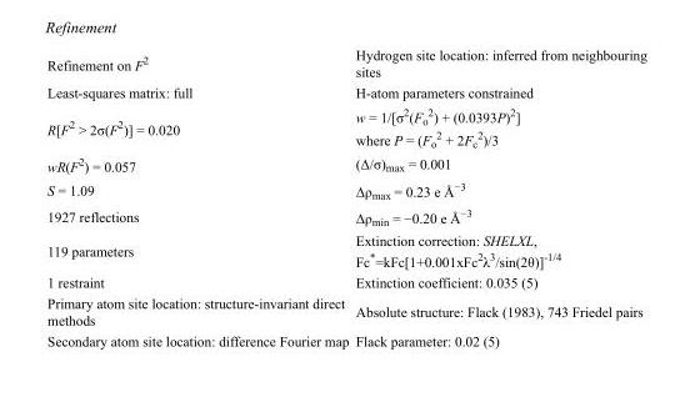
<table><tbody><tr><td>Refinement on F<sup>2</sup></td><td>Hydrogen site location: inferred from neighbouring sites</td></tr><tr><td>Least-squares matrix: full</td><td>H-atom parameters constrained</td></tr><tr><td>R[F<sup>2</sup> &gt; 2σ(F<sup>2</sup>)] = 0.020</td><td>w = 1/[σ<sup>2</sup>(F<sub>o</sub> <sup>2</sup>) + (0.0393P)<sup>2</sup>] where P = (F<sub>o</sub> <sup>2</sup> + 2F<sub>c</sub> <sup>2</sup>)/3</td></tr><tr><td>wR(F<sup>2</sup>) = 0.057</td><td>(Δ/σ)<sub>max</sub> = 0.001</td></tr><tr><td>S = 1.09</td><td>Δρ<sub>max</sub> = 0.23 e Å<sup>−3</sup></td></tr><tr><td>1927 reflections</td><td>Δρ<sub>min</sub> = −0.20 e Å<sup>−3</sup></td></tr><tr><td>119 parameters</td><td>Extinction correction: SHELXL, Fc*=kFc[1+0.001xFc<sup>2</sup>λ<sup>3</sup>/sin(2θ)]<sup>-1/4</sup></td></tr><tr><td>1 restraint</td><td>Extinction coefficient: 0.035 (5)</td></tr><tr><td>Primary atom site location: structure-invariant direct methods</td><td>Absolute structure: Flack (1983), 743 Friedel pairs</td></tr><tr><td>Secondary atom site location: difference Fourier map</td><td>Flack parameter: 0.02 (5)</td></tr></tbody></table>